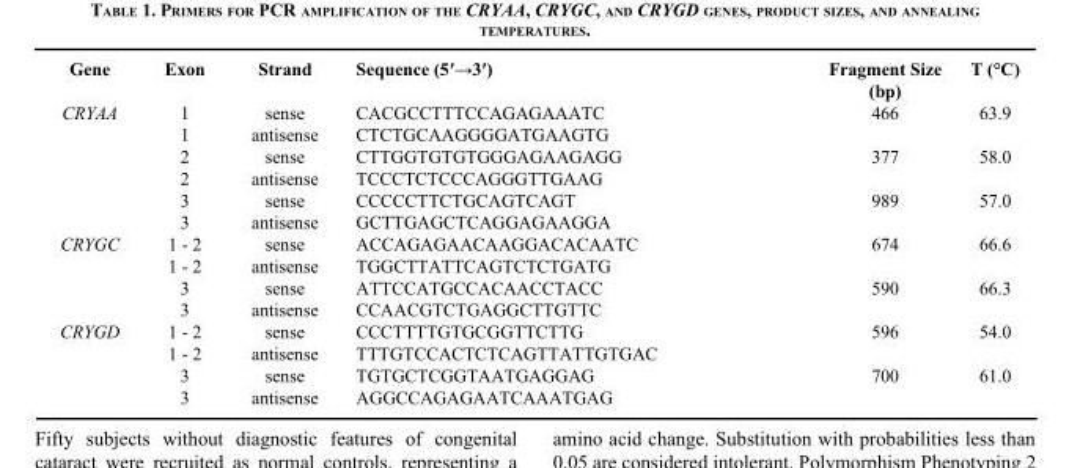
<table><thead><tr><td>Gene</td><td>Exon</td><td>Strand</td><td>Sequence (5′→3′)</td><td>Fragment Size (bp)</td><td>T (°C)</td></tr></thead><tbody><tr><td rowspan="6">CRYAA</td><td>1</td><td>sense</td><td>CACGCCTTTCCAGAGAAATC</td><td>466</td><td>63.9</td></tr><tr><td>1</td><td>antisense</td><td>CTCTGCAAGGGGATGAAGTG</td><td></td><td></td></tr><tr><td>2</td><td>sense</td><td>CTTGGTGTGTGGGAGAAGAGG</td><td>377</td><td>58.0</td></tr><tr><td>2</td><td>antisense</td><td>TCCCTCTCCCAGGGTTGAAG</td><td></td><td></td></tr><tr><td>3</td><td>sense</td><td>CCCCCTTCTGCAGTCAGT</td><td>989</td><td>57.0</td></tr><tr><td>3</td><td>antisense</td><td>GCTTGAGCTCAGGAGAAGGA</td><td></td><td></td></tr><tr><td rowspan="4">CRYGC</td><td>1 - 2</td><td>sense</td><td>ACCAGAGAACAAGGACACAATC</td><td>674</td><td>66.6</td></tr><tr><td>1 - 2</td><td>antisense</td><td>TGGCTTATTCAGTCTCTGATG</td><td></td><td></td></tr><tr><td>3</td><td>sense</td><td>ATTCCATGCCACAACCTACC</td><td>590</td><td>66.3</td></tr><tr><td>3</td><td>antisense</td><td>CCAACGTCTGAGGCTTGTTC</td><td></td><td></td></tr><tr><td rowspan="4">CRYGD</td><td>1 - 2</td><td>sense</td><td>CCCTTTTGTGCGGTTCTTG</td><td>596</td><td>54.0</td></tr><tr><td>1 - 2</td><td>antisense</td><td>TTTGTCCACTCTCAGTTATTGTGAC</td><td></td><td></td></tr><tr><td>3</td><td>sense</td><td>TGTGCTCGGTAATGAGGAG</td><td>700</td><td>61.0</td></tr><tr><td>3</td><td>antisense</td><td>AGGCCAGAGAATCAAATGAG</td><td></td><td></td></tr></tbody></table>